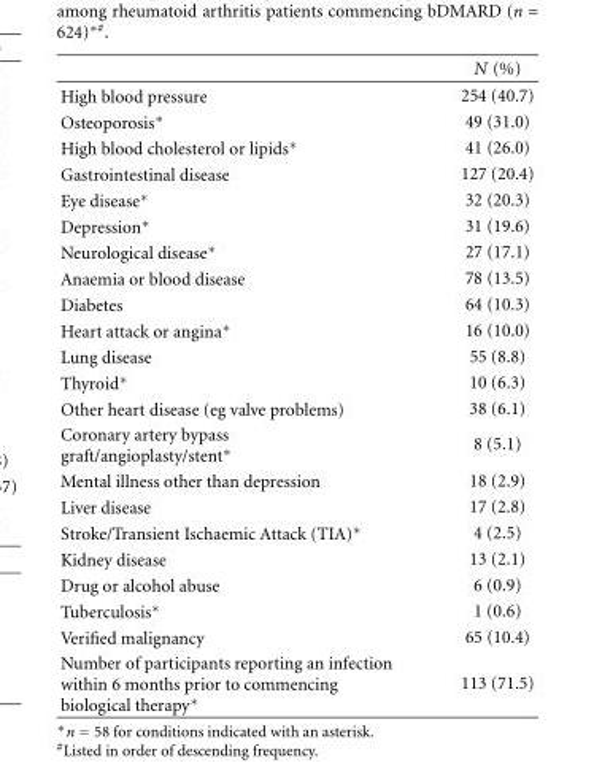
<table><thead><tr><td></td><td>N (%)</td></tr></thead><tbody><tr><td>High blood pressure</td><td>254 (40.7)</td></tr><tr><td>Osteoporosis∗</td><td>49 (31.0)</td></tr><tr><td>High blood cholesterol or lipids∗</td><td>41 (26.0)</td></tr><tr><td>Gastrointestinal disease</td><td>127 (20.4)</td></tr><tr><td>Eye disease∗</td><td>32 (20.3)</td></tr><tr><td>Depression∗</td><td>31 (19.6)</td></tr><tr><td>Neurological disease∗</td><td>27 (17.1)</td></tr><tr><td>Anaemia or blood disease</td><td>78 (13.5)</td></tr><tr><td>Diabetes</td><td>64 (10.3)</td></tr><tr><td>Heart attack or angina∗</td><td>16 (10.0)</td></tr><tr><td>Lung disease</td><td>55 (8.8)</td></tr><tr><td>Thyroid∗</td><td>10 (6.3)</td></tr><tr><td>Other heart disease (eg valve problems)</td><td>38 (6.1)</td></tr><tr><td>Coronary artery bypass graft/angioplasty/stent∗</td><td>8 (5.1)</td></tr><tr><td>Mental illness other than depression</td><td>18 (2.9)</td></tr><tr><td>Liver disease</td><td>17 (2.8)</td></tr><tr><td>Stroke/Transient Ischaemic Attack (TIA)∗</td><td>4 (2.5)</td></tr><tr><td>Kidney disease</td><td>13 (2.1)</td></tr><tr><td>Drug or alcohol abuse</td><td>6 (0.9)</td></tr><tr><td>Tuberculosis∗</td><td>1 (0.6)</td></tr><tr><td>Verified malignancy</td><td>65 (10.4)</td></tr><tr><td>Number of participants reporting an infection within 6 months prior to commencing biological therapy∗</td><td>113 (71.5)</td></tr></tbody></table>